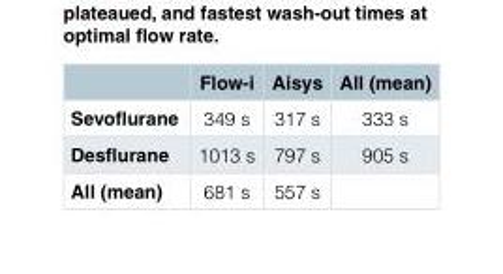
<table><thead><tr><td></td><td>Flow-i</td><td>Aisys</td><td>All (mean)</td></tr></thead><tbody><tr><td>Sevoflurane</td><td>349 s</td><td>317 s</td><td>333 s</td></tr><tr><td>Desflurane</td><td>1013 s</td><td>797 s</td><td>905 s</td></tr><tr><td>All (mean)</td><td>681 s</td><td>557 s</td><td></td></tr></tbody></table>